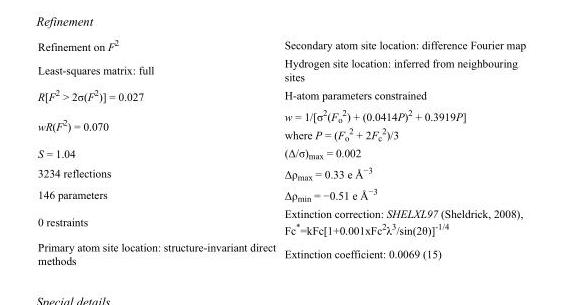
<table><tbody><tr><td>Refinement on F<sup>2</sup></td><td>Secondary atom site location: difference Fourier map</td></tr><tr><td>Least-squares matrix: full</td><td>Hydrogen site location: inferred from neighbouring sites</td></tr><tr><td>R[F<sup>2</sup> &gt; 2σ(F<sup>2</sup>)] = 0.027</td><td>H-atom parameters constrained</td></tr><tr><td>wR(F<sup>2</sup>) = 0.070</td><td>w = 1/[σ<sup>2</sup>(F<sub>o</sub> <sup>2</sup>) + (0.0414P)<sup>2</sup> + 0.3919P] where P = (F<sub>o</sub> <sup>2</sup> + 2F<sub>c</sub> <sup>2</sup>)/3</td></tr><tr><td>S = 1.04</td><td>(Δ/σ)<sub>max</sub> = 0.002</td></tr><tr><td>3234 reflections</td><td>Δρ<sub>max</sub> = 0.33 e Å<sup>−3</sup></td></tr><tr><td>146 parameters</td><td>Δρ<sub>min</sub> = −0.51 e Å<sup>−3</sup></td></tr><tr><td>0 restraints</td><td>Extinction correction: SHELXL97 (Sheldrick, 2008), Fc*=kFc[1+0.001xFc<sup>2</sup>λ<sup>3</sup>/sin(2θ)]<sup>-1/4</sup></td></tr><tr><td>Primary atom site location: structure-invariant direct methods</td><td>Extinction coefficient: 0.0069 (15)</td></tr></tbody></table>